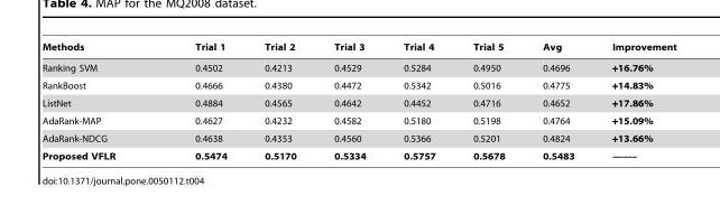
<table><thead><tr><td>Methods</td><td>Trial 1</td><td>Trial 2</td><td>Trial 3</td><td>Trial 4</td><td>Trial 5</td><td>Avg</td><td>Improvement</td></tr></thead><tbody><tr><td>Ranking SVM</td><td>0.4502</td><td>0.4213</td><td>0.4529</td><td>0.5284</td><td>0.4950</td><td>0.4696</td><td>+16.76%</td></tr><tr><td>RankBoost</td><td>0.4666</td><td>0.4380</td><td>0.4472</td><td>0.5342</td><td>0.5016</td><td>0.4775</td><td>+14.83%</td></tr><tr><td>ListNet</td><td>0.4884</td><td>0.4565</td><td>0.4642</td><td>0.4452</td><td>0.4716</td><td>0.4652</td><td>+17.86%</td></tr><tr><td>AdaRank-MAP</td><td>0.4627</td><td>0.4232</td><td>0.4582</td><td>0.5180</td><td>0.5198</td><td>0.4764</td><td>+15.09%</td></tr><tr><td>AdaRank-NDCG</td><td>0.4638</td><td>0.4353</td><td>0.4560</td><td>0.5366</td><td>0.5201</td><td>0.4824</td><td>+13.66%</td></tr><tr><td>Proposed VFLR</td><td>0.5474</td><td>0.5170</td><td>0.5334</td><td>0.5757</td><td>0.5678</td><td>0.5483</td><td>——–</td></tr></tbody></table>